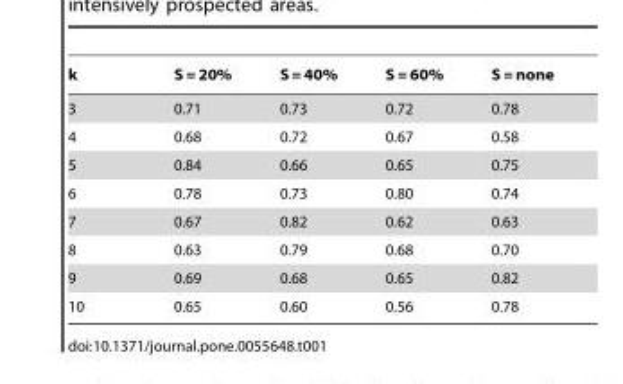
<table><thead><tr><td>k</td><td>S = 20%</td><td>S = 40%</td><td>S = 60%</td><td>S = none</td></tr></thead><tbody><tr><td>3</td><td>0.71</td><td>0.73</td><td>0.72</td><td>0.78</td></tr><tr><td>4</td><td>0.68</td><td>0.72</td><td>0.67</td><td>0.58</td></tr><tr><td>5</td><td>0.84</td><td>0.66</td><td>0.65</td><td>0.75</td></tr><tr><td>6</td><td>0.78</td><td>0.73</td><td>0.80</td><td>0.74</td></tr><tr><td>7</td><td>0.67</td><td>0.82</td><td>0.62</td><td>0.63</td></tr><tr><td>8</td><td>0.63</td><td>0.79</td><td>0.68</td><td>0.70</td></tr><tr><td>9</td><td>0.69</td><td>0.68</td><td>0.65</td><td>0.82</td></tr><tr><td>10</td><td>0.65</td><td>0.60</td><td>0.56</td><td>0.78</td></tr></tbody></table>